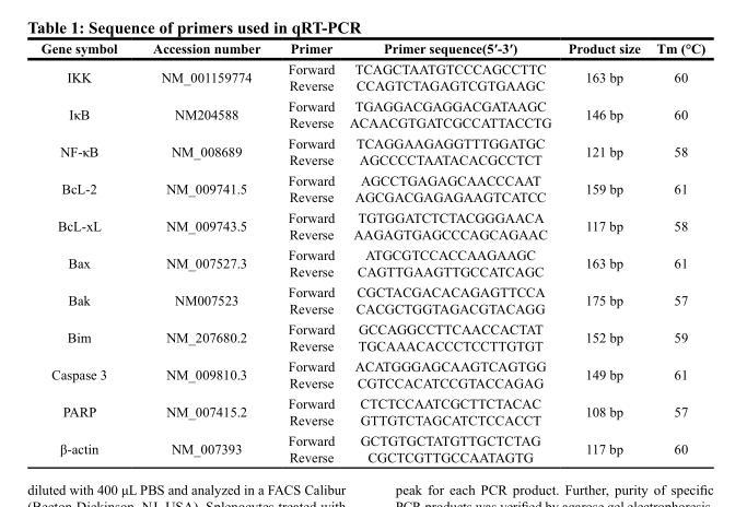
<table><thead><tr><td>Gene symbol</td><td>Accession number</td><td>Primer</td><td>Primer sequence(5′-3′)</td><td>Product size</td><td>Tm (°C)</td></tr></thead><tbody><tr><td rowspan="2">IKK</td><td rowspan="2">NM_001159774</td><td>Forward</td><td>TCAGCTAATGTCCCAGCCTTC</td><td rowspan="2">163 bp</td><td rowspan="2">60</td></tr><tr><td>Reverse</td><td>CCAGTCTAGAGTCGTGAAGC</td></tr><tr><td rowspan="2">IκB</td><td rowspan="2">NM204588</td><td>Forward</td><td>TGAGGACGAGGACGATAAGC</td><td rowspan="2">146 bp</td><td rowspan="2">60</td></tr><tr><td>Reverse</td><td>ACAACGTGATCGCCATTACCTG</td></tr><tr><td rowspan="2">NF-κB</td><td rowspan="2">NM_008689</td><td>Forward</td><td>TCAGGAAGAGGTTTGGATGC</td><td rowspan="2">121 bp</td><td rowspan="2">58</td></tr><tr><td>Reverse</td><td>AGCCCCTAATACACGCCTCT</td></tr><tr><td rowspan="2">BcL-2</td><td rowspan="2">NM_009741.5</td><td>Forward</td><td>AGCCTGAGAGCAACCCAAT</td><td rowspan="2">159 bp</td><td rowspan="2">61</td></tr><tr><td>Reverse</td><td>AGCGACGAGAGAAGTCATCC</td></tr><tr><td rowspan="2">BcL-xL</td><td rowspan="2">NM_009743.5</td><td>Forward</td><td>TGTGGATCTCTACGGGAACA</td><td rowspan="2">117 bp</td><td rowspan="2">58</td></tr><tr><td>Reverse</td><td>AAGAGTGAGCCCAGCAGAAC</td></tr><tr><td rowspan="2">Bax</td><td rowspan="2">NM_007527.3</td><td>Forward</td><td>ATGCGTCCACCAAGAAGC</td><td rowspan="2">163 bp</td><td rowspan="2">61</td></tr><tr><td>Reverse</td><td>CAGTTGAAGTTGCCATCAGC</td></tr><tr><td rowspan="2">Bak</td><td rowspan="2">NM007523</td><td>Forward</td><td>CGCTACGACACAGAGTTCCA</td><td rowspan="2">175 bp</td><td rowspan="2">57</td></tr><tr><td>Reverse</td><td>CACGCTGGTAGACGTACAGG</td></tr><tr><td rowspan="2">Bim</td><td rowspan="2">NM_207680.2</td><td>Forward</td><td>GCCAGGCCTTCAACCACTAT</td><td rowspan="2">152 bp</td><td rowspan="2">59</td></tr><tr><td>Reverse</td><td>TGCAAACACCCTCCTTGTGT</td></tr><tr><td rowspan="2">Caspase 3</td><td rowspan="2">NM_009810.3</td><td>Forward</td><td>ACATGGGAGCAAGTCAGTGG</td><td rowspan="2">149 bp</td><td rowspan="2">61</td></tr><tr><td>Reverse</td><td>CGTCCACATCCGTACCAGAG</td></tr><tr><td rowspan="2">PARP</td><td rowspan="2">NM_007415.2</td><td>Forward</td><td>CTCTCCAATCGCTTCTACAC</td><td rowspan="2">108 bp</td><td rowspan="2">57</td></tr><tr><td>Reverse</td><td>GTTGTCTAGCATCTCCACCT</td></tr><tr><td rowspan="2">β-actin</td><td rowspan="2">NM_007393</td><td>Forward</td><td>GCTGTGCTATGTTGCTCTAG</td><td rowspan="2">117 bp</td><td rowspan="2">60</td></tr><tr><td>Reverse</td><td>CGCTCGTTGCCAATAGTG</td></tr></tbody></table>